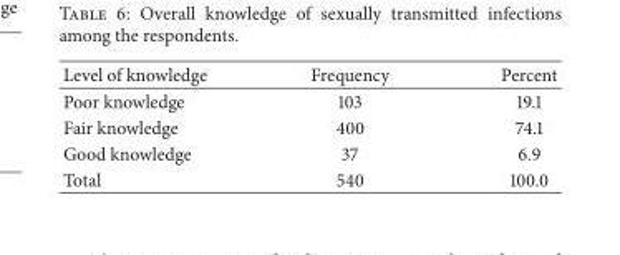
<table><thead><tr><td>Level of knowledge</td><td>Frequency</td><td>Percent</td></tr></thead><tbody><tr><td>Poor knowledge</td><td>103</td><td>19.1</td></tr><tr><td>Fair knowledge</td><td>400</td><td>74.1</td></tr><tr><td>Good knowledge</td><td>37</td><td>6.9</td></tr><tr><td>Total</td><td>540</td><td>100.0</td></tr></tbody></table>